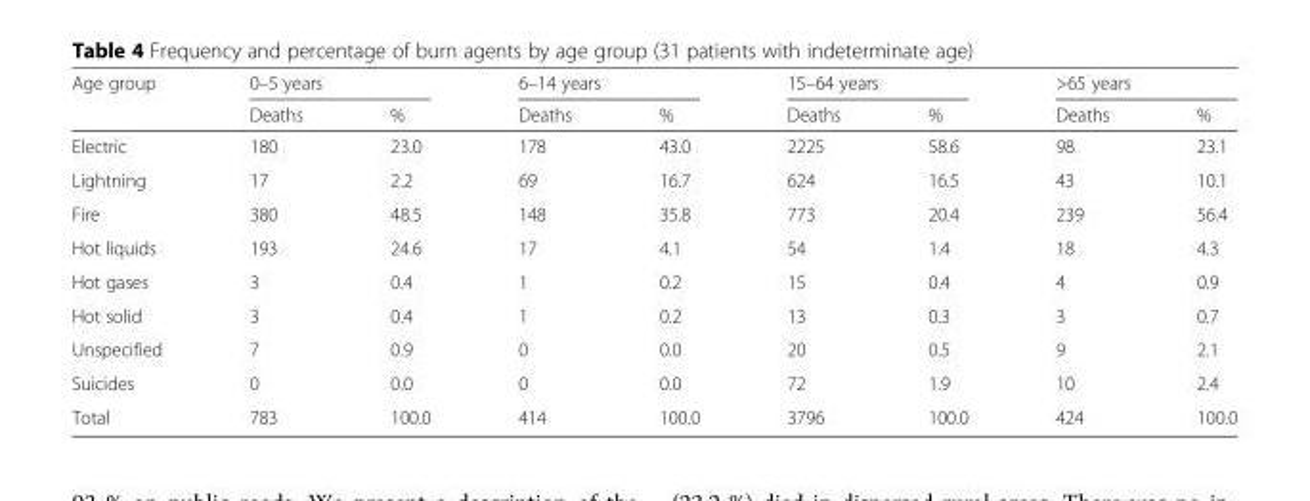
<table><thead><tr><td rowspan="2">Age group</td><td colspan="2">0–5 years</td><td colspan="2">6–14 years</td><td colspan="2">15–64 years</td><td colspan="2">&gt;65 years</td></tr><tr><td>Deaths</td><td>%</td><td>Deaths</td><td>%</td><td>Deaths</td><td>%</td><td>Deaths</td><td>%</td></tr></thead><tbody><tr><td>Electric</td><td>180</td><td>23.0</td><td>178</td><td>43.0</td><td>2225</td><td>58.6</td><td>98</td><td>23.1</td></tr><tr><td>Lightning</td><td>17</td><td>2.2</td><td>69</td><td>16.7</td><td>624</td><td>16.5</td><td>43</td><td>10.1</td></tr><tr><td>Fire</td><td>380</td><td>48.5</td><td>148</td><td>35.8</td><td>773</td><td>20.4</td><td>239</td><td>56.4</td></tr><tr><td>Hot liquids</td><td>193</td><td>24.6</td><td>17</td><td>4.1</td><td>54</td><td>1.4</td><td>18</td><td>4.3</td></tr><tr><td>Hot gases</td><td>3</td><td>0.4</td><td>1</td><td>0.2</td><td>15</td><td>0.4</td><td>4</td><td>0.9</td></tr><tr><td>Hot solid</td><td>3</td><td>0.4</td><td>1</td><td>0.2</td><td>13</td><td>0.3</td><td>3</td><td>0.7</td></tr><tr><td>Unspecified</td><td>7</td><td>0.9</td><td>0</td><td>0.0</td><td>20</td><td>0.5</td><td>9</td><td>2.1</td></tr><tr><td>Suicides</td><td>0</td><td>0.0</td><td>0</td><td>0.0</td><td>72</td><td>1.9</td><td>10</td><td>2.4</td></tr><tr><td>Total</td><td>783</td><td>100.0</td><td>414</td><td>100.0</td><td>3796</td><td>100.0</td><td>424</td><td>100.0</td></tr></tbody></table>